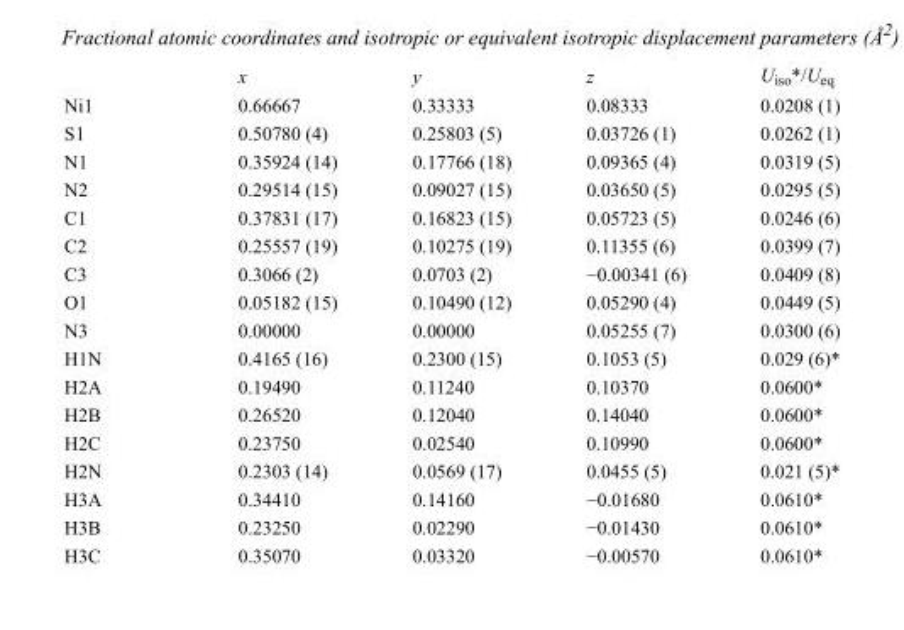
<table><thead><tr><td></td><td>x</td><td>y</td><td>z</td><td>U<sub>iso</sub>*/U<sub>eq</sub></td></tr></thead><tbody><tr><td>Ni1</td><td>0.66667</td><td>0.33333</td><td>0.08333</td><td>0.0208 (1)</td></tr><tr><td>S1</td><td>0.50780 (4)</td><td>0.25803 (5)</td><td>0.03726 (1)</td><td>0.0262 (1)</td></tr><tr><td>N1</td><td>0.35924 (14)</td><td>0.17766 (18)</td><td>0.09365 (4)</td><td>0.0319 (5)</td></tr><tr><td>N2</td><td>0.29514 (15)</td><td>0.09027 (15)</td><td>0.03650 (5)</td><td>0.0295 (5)</td></tr><tr><td>C1</td><td>0.37831 (17)</td><td>0.16823 (15)</td><td>0.05723 (5)</td><td>0.0246 (6)</td></tr><tr><td>C2</td><td>0.25557 (19)</td><td>0.10275 (19)</td><td>0.11355 (6)</td><td>0.0399 (7)</td></tr><tr><td>C3</td><td>0.3066 (2)</td><td>0.0703 (2)</td><td>−0.00341 (6)</td><td>0.0409 (8)</td></tr><tr><td>O1</td><td>0.05182 (15)</td><td>0.10490 (12)</td><td>0.05290 (4)</td><td>0.0449 (5)</td></tr><tr><td>N3</td><td>0.00000</td><td>0.00000</td><td>0.05255 (7)</td><td>0.0300 (6)</td></tr><tr><td>H1N</td><td>0.4165 (16)</td><td>0.2300 (15)</td><td>0.1053 (5)</td><td>0.029 (6)*</td></tr><tr><td>H2A</td><td>0.19490</td><td>0.11240</td><td>0.10370</td><td>0.0600*</td></tr><tr><td>H2B</td><td>0.26520</td><td>0.12040</td><td>0.14040</td><td>0.0600*</td></tr><tr><td>H2C</td><td>0.23750</td><td>0.02540</td><td>0.10990</td><td>0.0600*</td></tr><tr><td>H2N</td><td>0.2303 (14)</td><td>0.0569 (17)</td><td>0.0455 (5)</td><td>0.021 (5)*</td></tr><tr><td>H3A</td><td>0.34410</td><td>0.14160</td><td>−0.01680</td><td>0.0610*</td></tr><tr><td>H3B</td><td>0.23250</td><td>0.02290</td><td>−0.01430</td><td>0.0610*</td></tr><tr><td>H3C</td><td>0.35070</td><td>0.03320</td><td>−0.00570</td><td>0.0610*</td></tr></tbody></table>